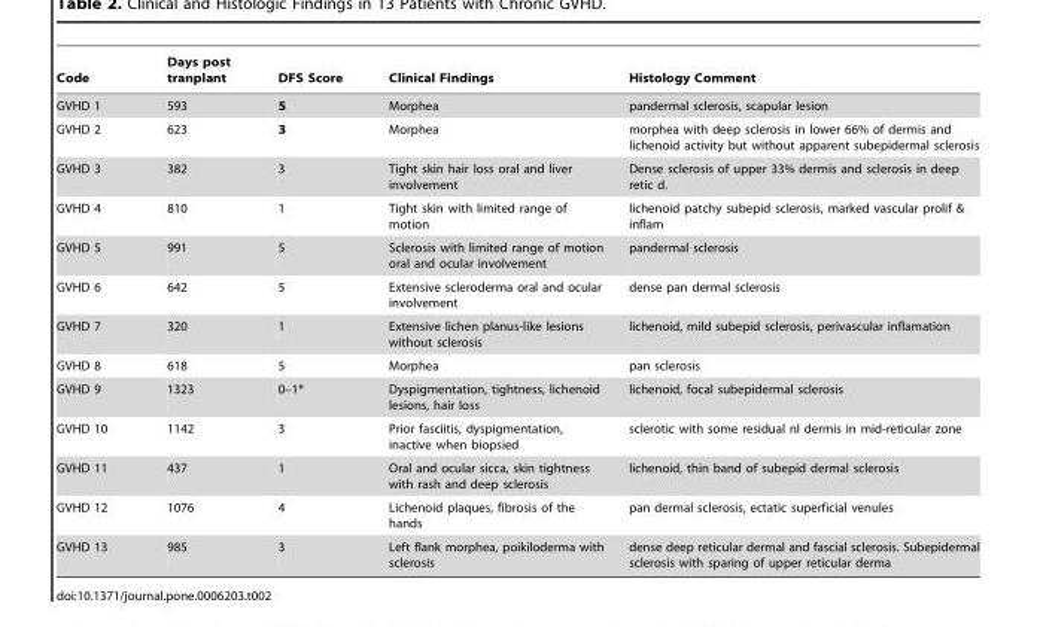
<table><thead><tr><td>Code</td><td>Days post tranplant</td><td>DFS Score</td><td>Clinical Findings</td><td>Histology Comment</td></tr></thead><tbody><tr><td>GVHD 1</td><td>593</td><td>5</td><td>Morphea</td><td>pandermal sclerosis, scapular lesion</td></tr><tr><td>GVHD 2</td><td>623</td><td>3</td><td>Morphea</td><td>morphea with deep sclerosis in lower 66% of dermis and lichenoid activity but without apparent subepidermal sclerosis</td></tr><tr><td>GVHD 3</td><td>382</td><td>3</td><td>Tight skin hair loss oral and liver involvement</td><td>Dense sclerosis of upper 33% dermis and sclerosis in deep retic d.</td></tr><tr><td>GVHD 4</td><td>810</td><td>1</td><td>Tight skin with limited range of motion</td><td>lichenoid patchy subepid sclerosis, marked vascular prolif &amp; inflam</td></tr><tr><td>GVHD 5</td><td>991</td><td>5</td><td>Sclerosis with limited range of motion oral and ocular involvement</td><td>pandermal sclerosis</td></tr><tr><td>GVHD 6</td><td>642</td><td>5</td><td>Extensive scleroderma oral and ocular involvement</td><td>dense pan dermal sclerosis</td></tr><tr><td>GVHD 7</td><td>320</td><td>1</td><td>Extensive lichen planus-like lesions without sclerosis</td><td>lichenoid, mild subepid sclerosis, perivascular inflamation</td></tr><tr><td>GVHD 8</td><td>618</td><td>5</td><td>Morphea</td><td>pan sclerosis</td></tr><tr><td>GVHD 9</td><td>1323</td><td>0–1*</td><td>Dyspigmentation, tightness, lichenoid lesions, hair loss</td><td>lichenoid, focal subepidermal sclerosis</td></tr><tr><td>GVHD 10</td><td>1142</td><td>3</td><td>Prior fasciitis, dyspigmentation, inactive when biopsied</td><td>sclerotic with some residual nl dermis in mid-reticular zone</td></tr><tr><td>GVHD 11</td><td>437</td><td>1</td><td>Oral and ocular sicca, skin tightness with rash and deep sclerosis</td><td>lichenoid, thin band of subepid dermal sclerosis</td></tr><tr><td>GVHD 12</td><td>1076</td><td>4</td><td>Lichenoid plaques, fibrosis of the hands</td><td>pan dermal sclerosis, ectatic superficial venules</td></tr><tr><td>GVHD 13</td><td>985</td><td>3</td><td>Left flank morphea, poikiloderma with sclerosis</td><td>dense deep reticular dermal and fascial sclerosis. Subepidermal sclerosis with sparing of upper reticular derma</td></tr></tbody></table>